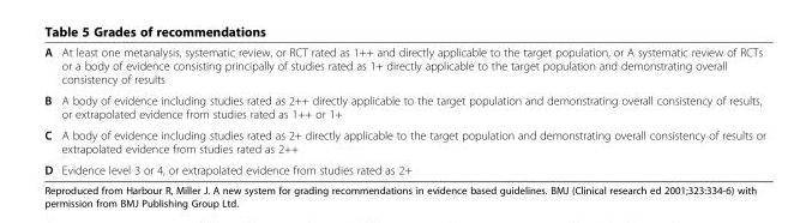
<table><tbody><tr><td>A</td><td>At least one metanalysis, systematic review, or RCT rated as 1++ and directly applicable to the target population, or A systematic review of RCTs or a body of evidence consisting principally of studies rated as 1+ directly applicable to the target population and demonstrating overall consistency of results</td></tr><tr><td>B</td><td>A body of evidence including studies rated as 2++ directly applicable to the target population and demonstrating overall consistency of results, or extrapolated evidence from studies rated as 1++ or 1+</td></tr><tr><td>C</td><td>A body of evidence including studies rated as 2+ directly applicable to the target population and demonstrating overall consistency of results or extrapolated evidence from studies rated as 2++</td></tr><tr><td>D</td><td>Evidence level 3 or 4, or extrapolated evidence from studies rated as 2+</td></tr></tbody></table>